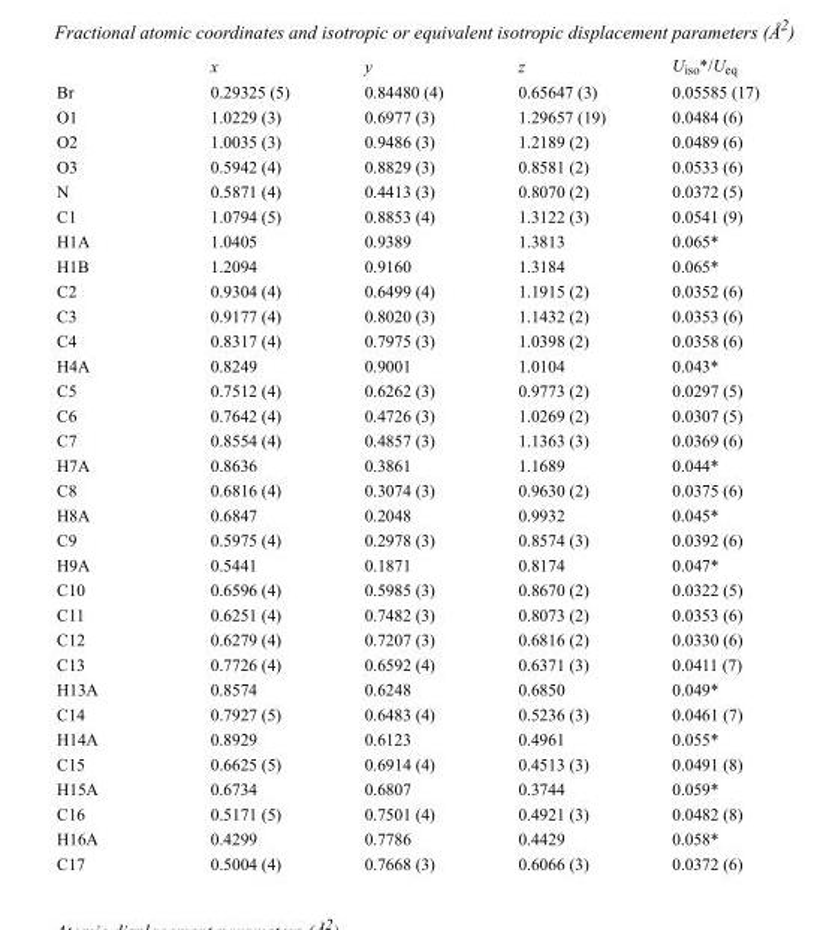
<table><thead><tr><td></td><td>x</td><td>y</td><td>z</td><td>U<sub>iso</sub>*/U<sub>eq</sub></td></tr></thead><tbody><tr><td>Br</td><td>0.29325 (5)</td><td>0.84480 (4)</td><td>0.65647 (3)</td><td>0.05585 (17)</td></tr><tr><td>O1</td><td>1.0229 (3)</td><td>0.6977 (3)</td><td>1.29657 (19)</td><td>0.0484 (6)</td></tr><tr><td>O2</td><td>1.0035 (3)</td><td>0.9486 (3)</td><td>1.2189 (2)</td><td>0.0489 (6)</td></tr><tr><td>O3</td><td>0.5942 (4)</td><td>0.8829 (3)</td><td>0.8581 (2)</td><td>0.0533 (6)</td></tr><tr><td>N</td><td>0.5871 (4)</td><td>0.4413 (3)</td><td>0.8070 (2)</td><td>0.0372 (5)</td></tr><tr><td>C1</td><td>1.0794 (5)</td><td>0.8853 (4)</td><td>1.3122 (3)</td><td>0.0541 (9)</td></tr><tr><td>H1A</td><td>1.0405</td><td>0.9389</td><td>1.3813</td><td>0.065*</td></tr><tr><td>H1B</td><td>1.2094</td><td>0.9160</td><td>1.3184</td><td>0.065*</td></tr><tr><td>C2</td><td>0.9304 (4)</td><td>0.6499 (4)</td><td>1.1915 (2)</td><td>0.0352 (6)</td></tr><tr><td>C3</td><td>0.9177 (4)</td><td>0.8020 (3)</td><td>1.1432 (2)</td><td>0.0353 (6)</td></tr><tr><td>C4</td><td>0.8317 (4)</td><td>0.7975 (3)</td><td>1.0398 (2)</td><td>0.0358 (6)</td></tr><tr><td>H4A</td><td>0.8249</td><td>0.9001</td><td>1.0104</td><td>0.043*</td></tr><tr><td>C5</td><td>0.7512 (4)</td><td>0.6262 (3)</td><td>0.9773 (2)</td><td>0.0297 (5)</td></tr><tr><td>C6</td><td>0.7642 (4)</td><td>0.4726 (3)</td><td>1.0269 (2)</td><td>0.0307 (5)</td></tr><tr><td>C7</td><td>0.8554 (4)</td><td>0.4857 (3)</td><td>1.1363 (3)</td><td>0.0369 (6)</td></tr><tr><td>H7A</td><td>0.8636</td><td>0.3861</td><td>1.1689</td><td>0.044*</td></tr><tr><td>C8</td><td>0.6816 (4)</td><td>0.3074 (3)</td><td>0.9630 (2)</td><td>0.0375 (6)</td></tr><tr><td>H8A</td><td>0.6847</td><td>0.2048</td><td>0.9932</td><td>0.045*</td></tr><tr><td>C9</td><td>0.5975 (4)</td><td>0.2978 (3)</td><td>0.8574 (3)</td><td>0.0392 (6)</td></tr><tr><td>H9A</td><td>0.5441</td><td>0.1871</td><td>0.8174</td><td>0.047*</td></tr><tr><td>C10</td><td>0.6596 (4)</td><td>0.5985 (3)</td><td>0.8670 (2)</td><td>0.0322 (5)</td></tr><tr><td>C11</td><td>0.6251 (4)</td><td>0.7482 (3)</td><td>0.8073 (2)</td><td>0.0353 (6)</td></tr><tr><td>C12</td><td>0.6279 (4)</td><td>0.7207 (3)</td><td>0.6816 (2)</td><td>0.0330 (6)</td></tr><tr><td>C13</td><td>0.7726 (4)</td><td>0.6592 (4)</td><td>0.6371 (3)</td><td>0.0411 (7)</td></tr><tr><td>H13A</td><td>0.8574</td><td>0.6248</td><td>0.6850</td><td>0.049*</td></tr><tr><td>C14</td><td>0.7927 (5)</td><td>0.6483 (4)</td><td>0.5236 (3)</td><td>0.0461 (7)</td></tr><tr><td>H14A</td><td>0.8929</td><td>0.6123</td><td>0.4961</td><td>0.055*</td></tr><tr><td>C15</td><td>0.6625 (5)</td><td>0.6914 (4)</td><td>0.4513 (3)</td><td>0.0491 (8)</td></tr><tr><td>H15A</td><td>0.6734</td><td>0.6807</td><td>0.3744</td><td>0.059*</td></tr><tr><td>C16</td><td>0.5171 (5)</td><td>0.7501 (4)</td><td>0.4921 (3)</td><td>0.0482 (8)</td></tr><tr><td>H16A</td><td>0.4299</td><td>0.7786</td><td>0.4429</td><td>0.058*</td></tr><tr><td>C17</td><td>0.5004 (4)</td><td>0.7668 (3)</td><td>0.6066 (3)</td><td>0.0372 (6)</td></tr></tbody></table>